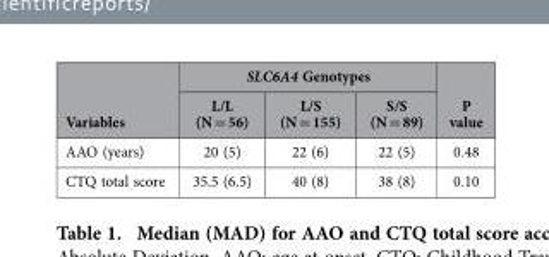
<table><thead><tr><td rowspan="2">Variables</td><td colspan="3">SLC6A4 Genotypes</td><td rowspan="2">P value</td></tr><tr><td>L/L (N = 56)</td><td>L/S (N = 155)</td><td>S/S (N = 89)</td></tr></thead><tbody><tr><td>AAO (years)</td><td>20 (5)</td><td>22 (6)</td><td>22 (5)</td><td>0.48</td></tr><tr><td>CTQ total score</td><td>35.5 (6.5)</td><td>40 (8)</td><td>38 (8)</td><td>0.10</td></tr></tbody></table>